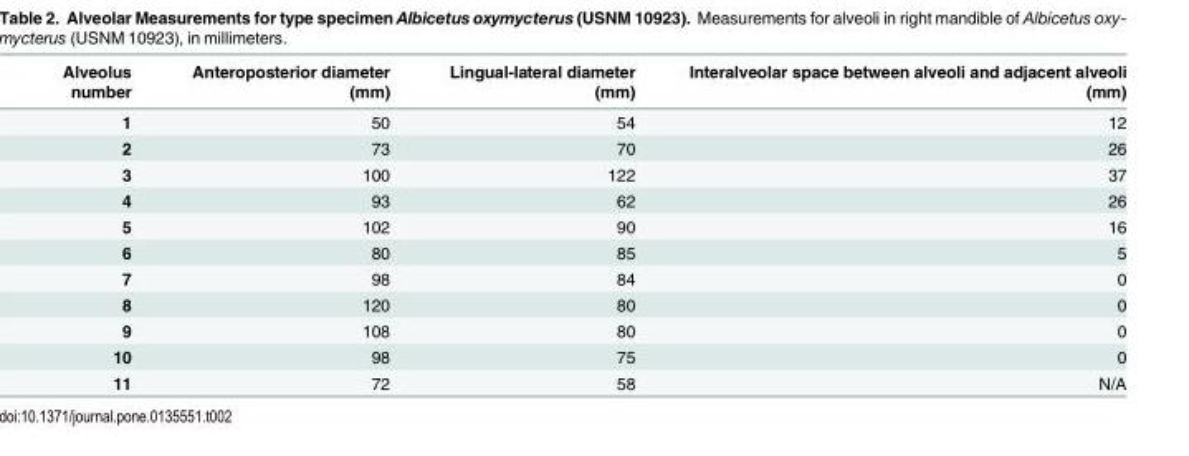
<table><thead><tr><td>Alveolus number</td><td>Anteroposterior diameter (mm)</td><td>Lingual-lateral diameter (mm)</td><td>Interalveolar space between alveoli and adjacent alveoli (mm)</td></tr></thead><tbody><tr><td>1</td><td>50</td><td>54</td><td>12</td></tr><tr><td>2</td><td>73</td><td>70</td><td>26</td></tr><tr><td>3</td><td>100</td><td>122</td><td>37</td></tr><tr><td>4</td><td>93</td><td>62</td><td>26</td></tr><tr><td>5</td><td>102</td><td>90</td><td>16</td></tr><tr><td>6</td><td>80</td><td>85</td><td>5</td></tr><tr><td>7</td><td>98</td><td>84</td><td>0</td></tr><tr><td>8</td><td>120</td><td>80</td><td>0</td></tr><tr><td>9</td><td>108</td><td>80</td><td>0</td></tr><tr><td>10</td><td>98</td><td>75</td><td>0</td></tr><tr><td>11</td><td>72</td><td>58</td><td>N/A</td></tr></tbody></table>